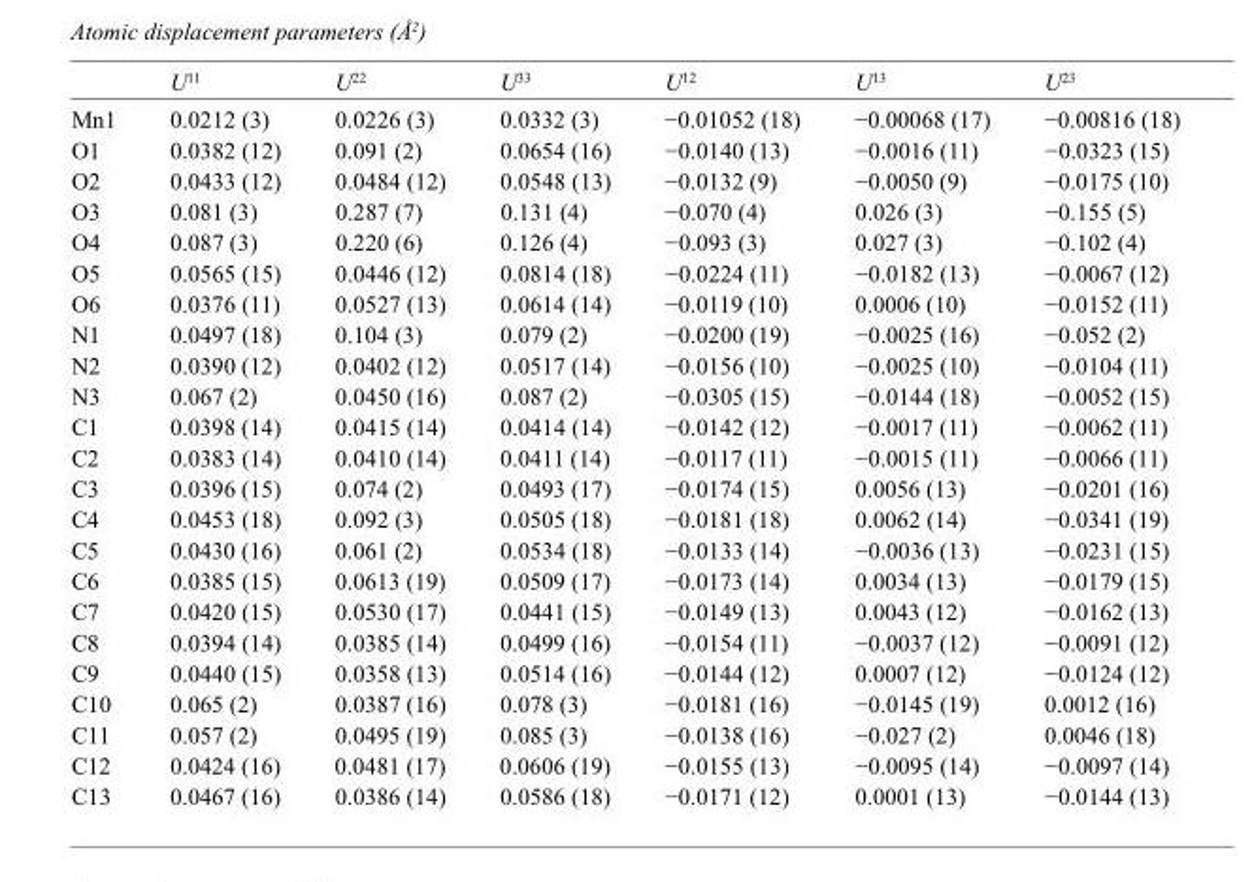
<table><thead><tr><td></td><td>U<sup>11</sup></td><td>U<sup>22</sup></td><td>U<sup>33</sup></td><td>U<sup>12</sup></td><td>U<sup>13</sup></td><td>U<sup>23</sup></td></tr></thead><tbody><tr><td>Mn1</td><td>0.0212 (3)</td><td>0.0226 (3)</td><td>0.0332 (3)</td><td>−0.01052 (18)</td><td>−0.00068 (17)</td><td>−0.00816 (18)</td></tr><tr><td>O1</td><td>0.0382 (12)</td><td>0.091 (2)</td><td>0.0654 (16)</td><td>−0.0140 (13)</td><td>−0.0016 (11)</td><td>−0.0323 (15)</td></tr><tr><td>O2</td><td>0.0433 (12)</td><td>0.0484 (12)</td><td>0.0548 (13)</td><td>−0.0132 (9)</td><td>−0.0050 (9)</td><td>−0.0175 (10)</td></tr><tr><td>O3</td><td>0.081 (3)</td><td>0.287 (7)</td><td>0.131 (4)</td><td>−0.070 (4)</td><td>0.026 (3)</td><td>−0.155 (5)</td></tr><tr><td>O4</td><td>0.087 (3)</td><td>0.220 (6)</td><td>0.126 (4)</td><td>−0.093 (3)</td><td>0.027 (3)</td><td>−0.102 (4)</td></tr><tr><td>O5</td><td>0.0565 (15)</td><td>0.0446 (12)</td><td>0.0814 (18)</td><td>−0.0224 (11)</td><td>−0.0182 (13)</td><td>−0.0067 (12)</td></tr><tr><td>O6</td><td>0.0376 (11)</td><td>0.0527 (13)</td><td>0.0614 (14)</td><td>−0.0119 (10)</td><td>0.0006 (10)</td><td>−0.0152 (11)</td></tr><tr><td>N1</td><td>0.0497 (18)</td><td>0.104 (3)</td><td>0.079 (2)</td><td>−0.0200 (19)</td><td>−0.0025 (16)</td><td>−0.052 (2)</td></tr><tr><td>N2</td><td>0.0390 (12)</td><td>0.0402 (12)</td><td>0.0517 (14)</td><td>−0.0156 (10)</td><td>−0.0025 (10)</td><td>−0.0104 (11)</td></tr><tr><td>N3</td><td>0.067 (2)</td><td>0.0450 (16)</td><td>0.087 (2)</td><td>−0.0305 (15)</td><td>−0.0144 (18)</td><td>−0.0052 (15)</td></tr><tr><td>C1</td><td>0.0398 (14)</td><td>0.0415 (14)</td><td>0.0414 (14)</td><td>−0.0142 (12)</td><td>−0.0017 (11)</td><td>−0.0062 (11)</td></tr><tr><td>C2</td><td>0.0383 (14)</td><td>0.0410 (14)</td><td>0.0411 (14)</td><td>−0.0117 (11)</td><td>−0.0015 (11)</td><td>−0.0066 (11)</td></tr><tr><td>C3</td><td>0.0396 (15)</td><td>0.074 (2)</td><td>0.0493 (17)</td><td>−0.0174 (15)</td><td>0.0056 (13)</td><td>−0.0201 (16)</td></tr><tr><td>C4</td><td>0.0453 (18)</td><td>0.092 (3)</td><td>0.0505 (18)</td><td>−0.0181 (18)</td><td>0.0062 (14)</td><td>−0.0341 (19)</td></tr><tr><td>C5</td><td>0.0430 (16)</td><td>0.061 (2)</td><td>0.0534 (18)</td><td>−0.0133 (14)</td><td>−0.0036 (13)</td><td>−0.0231 (15)</td></tr><tr><td>C6</td><td>0.0385 (15)</td><td>0.0613 (19)</td><td>0.0509 (17)</td><td>−0.0173 (14)</td><td>0.0034 (13)</td><td>−0.0179 (15)</td></tr><tr><td>C7</td><td>0.0420 (15)</td><td>0.0530 (17)</td><td>0.0441 (15)</td><td>−0.0149 (13)</td><td>0.0043 (12)</td><td>−0.0162 (13)</td></tr><tr><td>C8</td><td>0.0394 (14)</td><td>0.0385 (14)</td><td>0.0499 (16)</td><td>−0.0154 (11)</td><td>−0.0037 (12)</td><td>−0.0091 (12)</td></tr><tr><td>C9</td><td>0.0440 (15)</td><td>0.0358 (13)</td><td>0.0514 (16)</td><td>−0.0144 (12)</td><td>0.0007 (12)</td><td>−0.0124 (12)</td></tr><tr><td>C10</td><td>0.065 (2)</td><td>0.0387 (16)</td><td>0.078 (3)</td><td>−0.0181 (16)</td><td>−0.0145 (19)</td><td>0.0012 (16)</td></tr><tr><td>C11</td><td>0.057 (2)</td><td>0.0495 (19)</td><td>0.085 (3)</td><td>−0.0138 (16)</td><td>−0.027 (2)</td><td>0.0046 (18)</td></tr><tr><td>C12</td><td>0.0424 (16)</td><td>0.0481 (17)</td><td>0.0606 (19)</td><td>−0.0155 (13)</td><td>−0.0095 (14)</td><td>−0.0097 (14)</td></tr><tr><td>C13</td><td>0.0467 (16)</td><td>0.0386 (14)</td><td>0.0586 (18)</td><td>−0.0171 (12)</td><td>0.0001 (13)</td><td>−0.0144 (13)</td></tr></tbody></table>